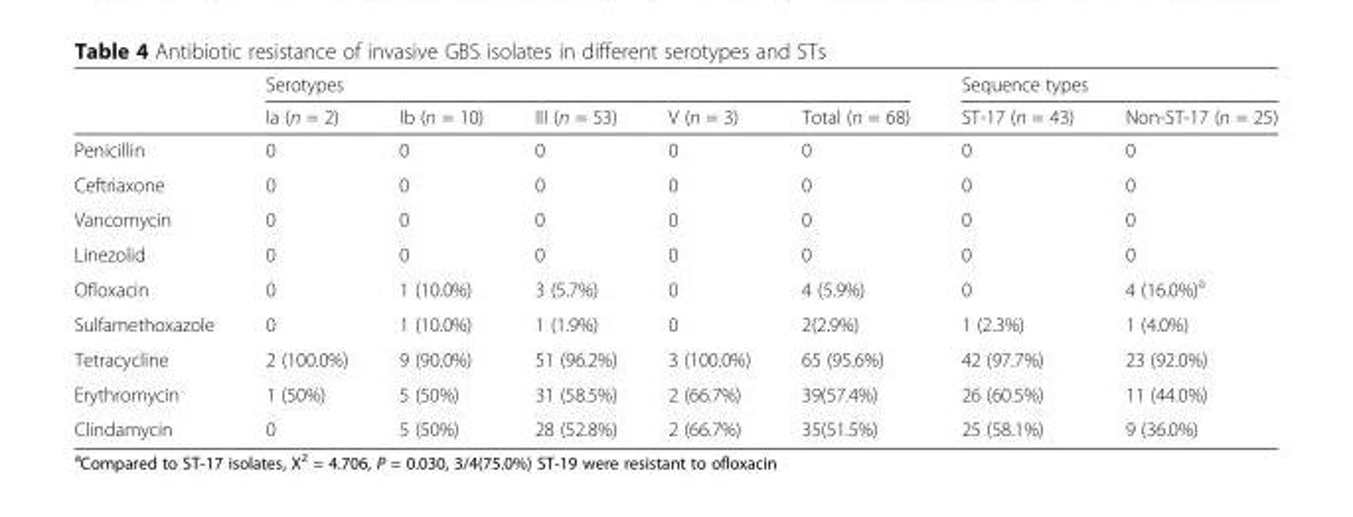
<table><thead><tr><td rowspan="2"></td><td colspan="5">Serotypes</td><td colspan="2">Sequence types</td></tr><tr><td>Ia (n = 2)</td><td>Ib (n = 10)</td><td>III (n = 53)</td><td>V (n = 3)</td><td>Total (n = 68)</td><td>ST-17 (n = 43)</td><td>Non-ST-17 (n = 25)</td></tr></thead><tbody><tr><td>Penicillin</td><td>0</td><td>0</td><td>0</td><td>0</td><td>0</td><td>0</td><td>0</td></tr><tr><td>Ceftriaxone</td><td>0</td><td>0</td><td>0</td><td>0</td><td>0</td><td>0</td><td>0</td></tr><tr><td>Vancomycin</td><td>0</td><td>0</td><td>0</td><td>0</td><td>0</td><td>0</td><td>0</td></tr><tr><td>Linezolid</td><td>0</td><td>0</td><td>0</td><td>0</td><td>0</td><td>0</td><td>0</td></tr><tr><td>Ofloxacin</td><td>0</td><td>1 (10.0%)</td><td>3 (5.7%)</td><td>0</td><td>4 (5.9%)</td><td>0</td><td>4 (16.0%)<sup>a</sup></td></tr><tr><td>Sulfamethoxazole</td><td>0</td><td>1 (10.0%)</td><td>1 (1.9%)</td><td>0</td><td>2(2.9%)</td><td>1 (2.3%)</td><td>1 (4.0%)</td></tr><tr><td>Tetracycline</td><td>2 (100.0%)</td><td>9 (90.0%)</td><td>51 (96.2%)</td><td>3 (100.0%)</td><td>65 (95.6%)</td><td>42 (97.7%)</td><td>23 (92.0%)</td></tr><tr><td>Erythromycin</td><td>1 (50%)</td><td>5 (50%)</td><td>31 (58.5%)</td><td>2 (66.7%)</td><td>39(57.4%)</td><td>26 (60.5%)</td><td>11 (44.0%)</td></tr><tr><td>Clindamycin</td><td>0</td><td>5 (50%)</td><td>28 (52.8%)</td><td>2 (66.7%)</td><td>35(51.5%)</td><td>25 (58.1%)</td><td>9 (36.0%)</td></tr></tbody></table>